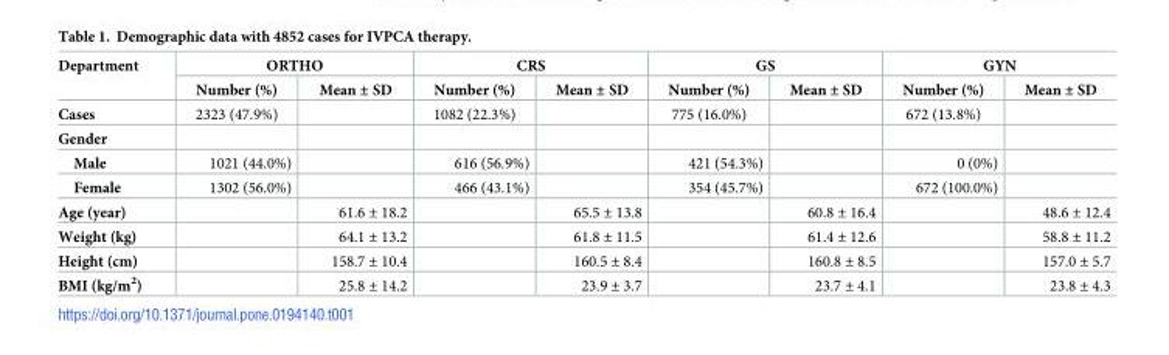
<table><thead><tr><td rowspan="2">Department</td><td colspan="2">ORTHO</td><td colspan="2">CRS</td><td colspan="2">GS</td><td colspan="2">GYN</td></tr><tr><td>Number (%)</td><td>Mean ± SD</td><td>Number (%)</td><td>Mean ± SD</td><td>Number (%)</td><td>Mean ± SD</td><td>Number (%)</td><td>Mean ± SD</td></tr></thead><tbody><tr><td>Cases</td><td>2323 (47.9%)</td><td></td><td>1082 (22.3%)</td><td></td><td>775 (16.0%)</td><td></td><td>672 (13.8%)</td><td></td></tr><tr><td colspan="9">Gender</td></tr><tr><td>Male</td><td>1021 (44.0%)</td><td></td><td>616 (56.9%)</td><td></td><td>421 (54.3%)</td><td></td><td>0 (0%)</td><td></td></tr><tr><td>Female</td><td>1302 (56.0%)</td><td></td><td>466 (43.1%)</td><td></td><td>354 (45.7%)</td><td></td><td>672 (100.0%)</td><td></td></tr><tr><td>Age (year)</td><td></td><td>61.6 ± 18.2</td><td></td><td>65.5 ± 13.8</td><td></td><td>60.8 ± 16.4</td><td></td><td>48.6 ± 12.4</td></tr><tr><td>Weight (kg)</td><td></td><td>64.1 ± 13.2</td><td></td><td>61.8 ± 11.5</td><td></td><td>61.4 ± 12.6</td><td></td><td>58.8 ± 11.2</td></tr><tr><td>Height (cm)</td><td></td><td>158.7 ± 10.4</td><td></td><td>160.5 ± 8.4</td><td></td><td>160.8 ± 8.5</td><td></td><td>157.0 ± 5.7</td></tr><tr><td>BMI (kg/m<sup>2</sup>)</td><td></td><td>25.8 ± 14.2</td><td></td><td>23.9 ± 3.7</td><td></td><td>23.7 ± 4.1</td><td></td><td>23.8 ± 4.3</td></tr></tbody></table>